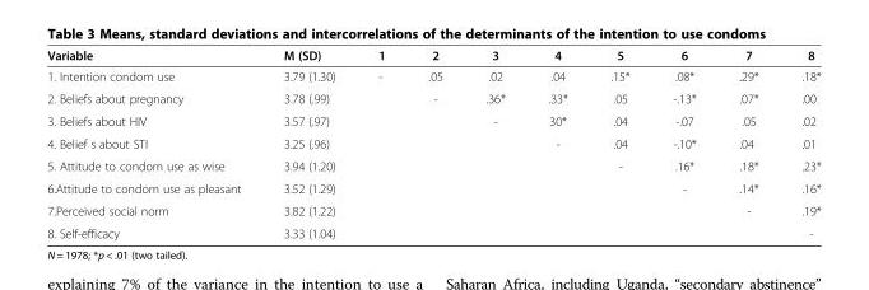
<table><thead><tr><td>Variable</td><td>M (SD)</td><td>1</td><td>2</td><td>3</td><td>4</td><td>5</td><td>6</td><td>7</td><td>8</td></tr></thead><tbody><tr><td>1. Intention condom use</td><td>3.79 (1.30)</td><td>-</td><td>.05</td><td>.02</td><td>.04</td><td>.15*</td><td>.08*</td><td>.29*</td><td>.18*</td></tr><tr><td>2. Beliefs about pregnancy</td><td>3.78 (.99)</td><td></td><td>-</td><td>.36*</td><td>.33*</td><td>.05</td><td>-.13*</td><td>.07*</td><td>.00</td></tr><tr><td>3. Beliefs about HIV</td><td>3.57 (.97)</td><td></td><td></td><td>-</td><td>30*</td><td>.04</td><td>-.07</td><td>.05</td><td>.02</td></tr><tr><td>4. Belief s about STI</td><td>3.25 (.96)</td><td></td><td></td><td></td><td>-</td><td>.04</td><td>-.10*</td><td>.04</td><td>.01</td></tr><tr><td>5. Attitude to condom use as wise</td><td>3.94 (1.20)</td><td></td><td></td><td></td><td></td><td>-</td><td>.16*</td><td>.18*</td><td>.23*</td></tr><tr><td>6.Attitude to condom use as pleasant</td><td>3.52 (1.29)</td><td></td><td></td><td></td><td></td><td></td><td>-</td><td>.14*</td><td>.16*</td></tr><tr><td>7.Perceived social norm</td><td>3.82 (1.22)</td><td></td><td></td><td></td><td></td><td></td><td></td><td>-</td><td>.19*</td></tr><tr><td>8. Self-efficacy</td><td>3.33 (1.04)</td><td></td><td></td><td></td><td></td><td></td><td></td><td></td><td>-</td></tr></tbody></table>